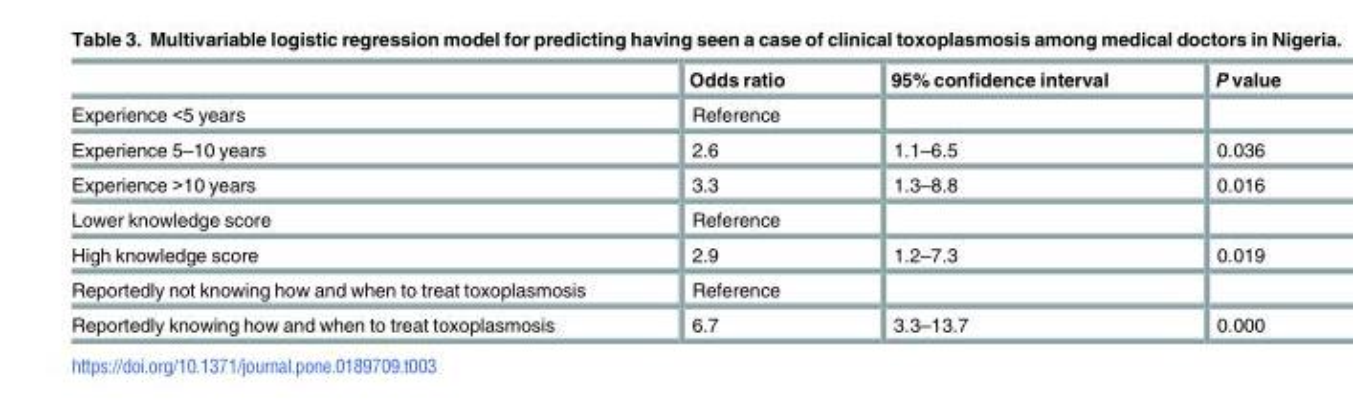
<table><thead><tr><td></td><td>Odds ratio</td><td>95% confidence interval</td><td>P value</td></tr></thead><tbody><tr><td>Experience &lt;5 years</td><td>Reference</td><td></td><td></td></tr><tr><td>Experience 5–10 years</td><td>2.6</td><td>1.1–6.5</td><td>0.036</td></tr><tr><td>Experience &gt;10 years</td><td>3.3</td><td>1.3–8.8</td><td>0.016</td></tr><tr><td>Lower knowledge score</td><td>Reference</td><td></td><td></td></tr><tr><td>High knowledge score</td><td>2.9</td><td>1.2–7.3</td><td>0.019</td></tr><tr><td>Reportedly not knowing how and when to treat toxoplasmosis</td><td>Reference</td><td></td><td></td></tr><tr><td>Reportedly knowing how and when to treat toxoplasmosis</td><td>6.7</td><td>3.3–13.7</td><td>0.000</td></tr></tbody></table>